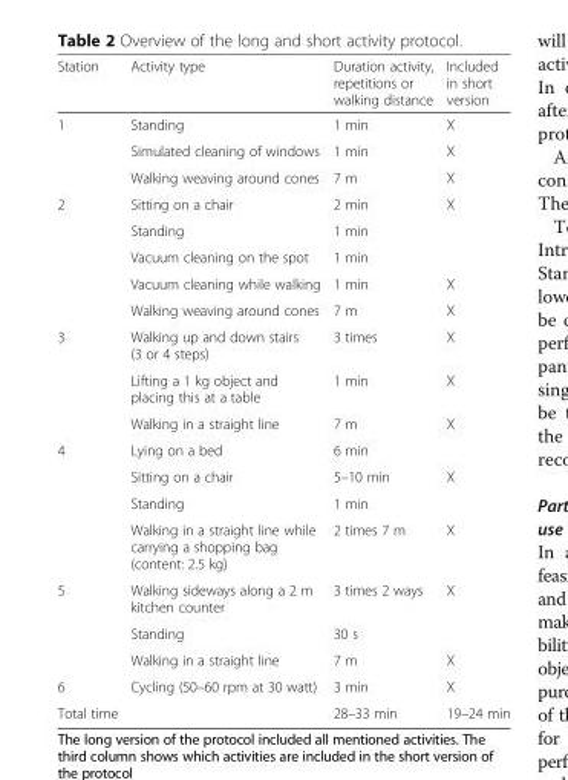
<table><thead><tr><td>Station</td><td>Activity type</td><td>Duration activity, repetitions or walking distance</td><td>Included in short version</td></tr></thead><tbody><tr><td rowspan="3">1</td><td>Standing</td><td>1 min</td><td>X</td></tr><tr><td>Simulated cleaning of windows</td><td>1 min</td><td>X</td></tr><tr><td>Walking weaving around cones</td><td>7 m</td><td>X</td></tr><tr><td rowspan="5">2</td><td>Sitting on a chair</td><td>2 min</td><td>X</td></tr><tr><td>Standing</td><td>1 min</td><td></td></tr><tr><td>Vacuum cleaning on the spot</td><td>1 min</td><td></td></tr><tr><td>Vacuum cleaning while walking</td><td>1 min</td><td>X</td></tr><tr><td>Walking weaving around cones</td><td>7 m</td><td>X</td></tr><tr><td rowspan="3">3</td><td>Walking up and down stairs (3 or 4 steps)</td><td>3 times</td><td>X</td></tr><tr><td>Lifting a 1 kg object and placing this at a table</td><td>1 min</td><td>X</td></tr><tr><td>Walking in a straight line</td><td>7 m</td><td>X</td></tr><tr><td rowspan="4">4</td><td>Lying on a bed</td><td>6 min</td><td></td></tr><tr><td>Sitting on a chair</td><td>5–10 min</td><td>X</td></tr><tr><td>Standing</td><td>1 min</td><td></td></tr><tr><td>Walking in a straight line while carrying a shopping bag (content: 2.5 kg)</td><td>2 times 7 m</td><td>X</td></tr><tr><td rowspan="3">5</td><td>Walking sideways along a 2 m kitchen counter</td><td>3 times 2 ways</td><td>X</td></tr><tr><td>Standing</td><td>30 s</td><td></td></tr><tr><td>Walking in a straight line</td><td>7 m</td><td>X</td></tr><tr><td>6</td><td>Cycling (50–60 rpm at 30 watt)</td><td>3 min</td><td>X</td></tr><tr><td>Total time</td><td></td><td>28–33 min</td><td>19–24 min</td></tr></tbody></table>